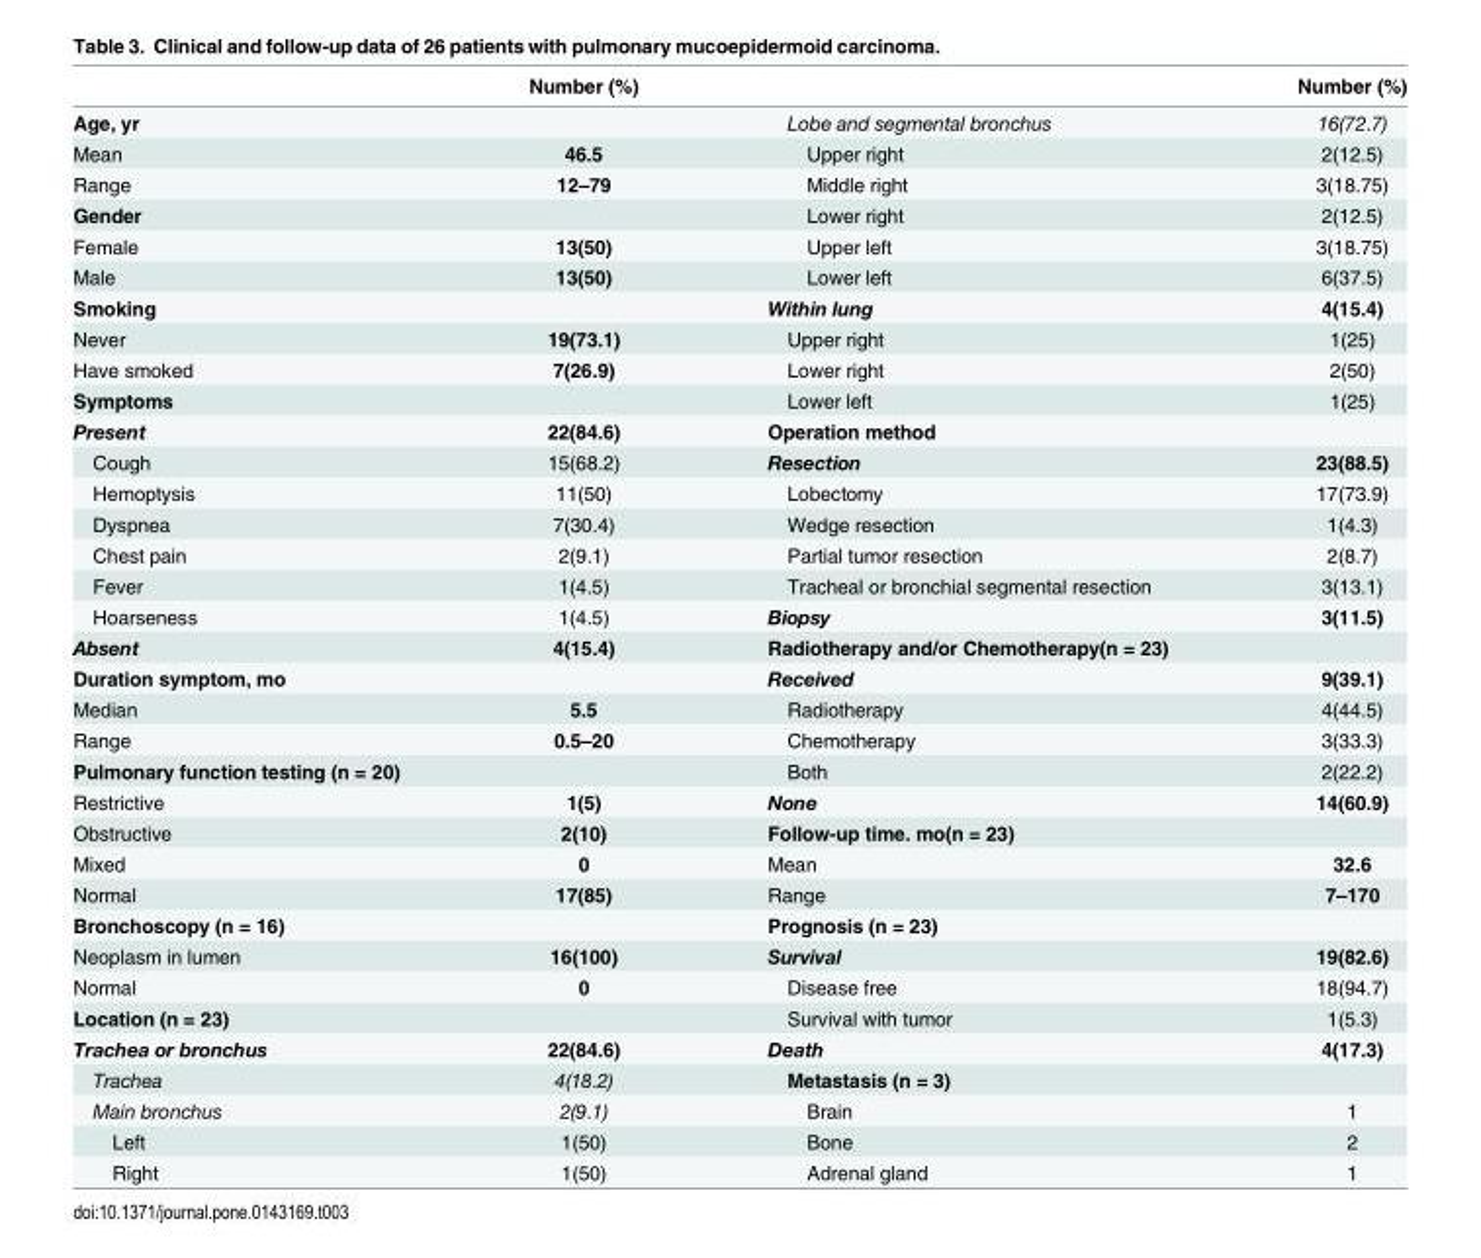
<table><thead><tr><td></td><td>Number (%)</td><td></td><td>Number (%)</td></tr></thead><tbody><tr><td>Age, yr</td><td></td><td>Lobe and segmental bronchus</td><td>16(72.7)</td></tr><tr><td>Mean</td><td>46.5</td><td>Upper right</td><td>2(12.5)</td></tr><tr><td>Range</td><td>12–79</td><td>Middle right</td><td>3(18.75)</td></tr><tr><td>Gender</td><td></td><td>Lower right</td><td>2(12.5)</td></tr><tr><td>Female</td><td>13(50)</td><td>Upper left</td><td>3(18.75)</td></tr><tr><td>Male</td><td>13(50)</td><td>Lower left</td><td>6(37.5)</td></tr><tr><td>Smoking</td><td></td><td>Within lung</td><td>4(15.4)</td></tr><tr><td>Never</td><td>19(73.1)</td><td>Upper right</td><td>1(25)</td></tr><tr><td>Have smoked</td><td>7(26.9)</td><td>Lower right</td><td>2(50)</td></tr><tr><td>Symptoms</td><td></td><td>Lower left</td><td>1(25)</td></tr><tr><td>Present</td><td>22(84.6)</td><td>Operation method</td><td></td></tr><tr><td>Cough</td><td>15(68.2)</td><td>Resection</td><td>23(88.5)</td></tr><tr><td>Hemoptysis</td><td>11(50)</td><td>Lobectomy</td><td>17(73.9)</td></tr><tr><td>Dyspnea</td><td>7(30.4)</td><td>Wedge resection</td><td>1(4.3)</td></tr><tr><td>Chest pain</td><td>2(9.1)</td><td>Partial tumor resection</td><td>2(8.7)</td></tr><tr><td>Fever</td><td>1(4.5)</td><td>Tracheal or bronchial segmental resection</td><td>3(13.1)</td></tr><tr><td>Hoarseness</td><td>1(4.5)</td><td>Biopsy</td><td>3(11.5)</td></tr><tr><td>Absent</td><td>4(15.4)</td><td>Radiotherapy and/or Chemotherapy(n = 23)</td><td></td></tr><tr><td>Duration symptom, mo</td><td></td><td>Received</td><td>9(39.1)</td></tr><tr><td>Median</td><td>5.5</td><td>Radiotherapy</td><td>4(44.5)</td></tr><tr><td>Range</td><td>0.5–20</td><td>Chemotherapy</td><td>3(33.3)</td></tr><tr><td>Pulmonary function testing (n = 20)</td><td></td><td>Both</td><td>2(22.2)</td></tr><tr><td>Restrictive</td><td>1(5)</td><td>None</td><td>14(60.9)</td></tr><tr><td>Obstructive</td><td>2(10)</td><td>Follow-up time. mo(n = 23)</td><td></td></tr><tr><td>Mixed</td><td>0</td><td>Mean</td><td>32.6</td></tr><tr><td>Normal</td><td>17(85)</td><td>Range</td><td>7–170</td></tr><tr><td>Bronchoscopy (n = 16)</td><td></td><td>Prognosis (n = 23)</td><td></td></tr><tr><td>Neoplasm in lumen</td><td>16(100)</td><td>Survival</td><td>19(82.6)</td></tr><tr><td>Normal</td><td>0</td><td>Disease free</td><td>18(94.7)</td></tr><tr><td>Location (n = 23)</td><td></td><td>Survival with tumor</td><td>1(5.3)</td></tr><tr><td>Trachea or bronchus</td><td>22(84.6)</td><td>Death</td><td>4(17.3)</td></tr><tr><td>Trachea</td><td>4(18.2)</td><td>Metastasis (n = 3)</td><td></td></tr><tr><td>Main bronchus</td><td>2(9.1)</td><td>Brain</td><td>1</td></tr><tr><td>Left</td><td>1(50)</td><td>Bone</td><td>2</td></tr><tr><td>Right</td><td>1(50)</td><td>Adrenal gland</td><td>1</td></tr></tbody></table>